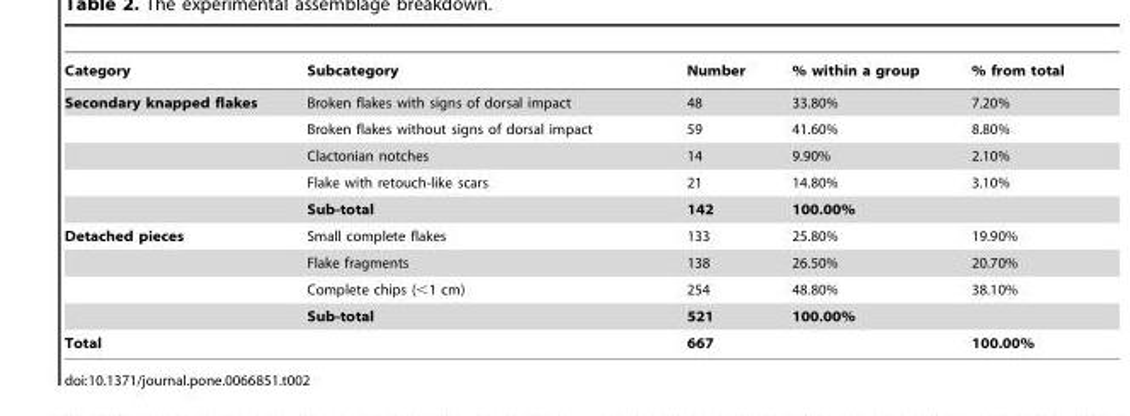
<table><thead><tr><td>Category</td><td>Subcategory</td><td>Number</td><td>% within a group</td><td>% from total</td></tr></thead><tbody><tr><td rowspan="5">Secondary knapped flakes</td><td>Broken flakes with signs of dorsal impact</td><td>48</td><td>33.80%</td><td>7.20%</td></tr><tr><td>Broken flakes without signs of dorsal impact</td><td>59</td><td>41.60%</td><td>8.80%</td></tr><tr><td>Clactonian notches</td><td>14</td><td>9.90%</td><td>2.10%</td></tr><tr><td>Flake with retouch-like scars</td><td>21</td><td>14.80%</td><td>3.10%</td></tr><tr><td>Sub-total</td><td>142</td><td>100.00%</td><td></td></tr><tr><td rowspan="4">Detached pieces</td><td>Small complete flakes</td><td>133</td><td>25.80%</td><td>19.90%</td></tr><tr><td>Flake fragments</td><td>138</td><td>26.50%</td><td>20.70%</td></tr><tr><td>Complete chips (&lt;1 cm)</td><td>254</td><td>48.80%</td><td>38.10%</td></tr><tr><td>Sub-total</td><td>521</td><td>100.00%</td><td></td></tr><tr><td>Total</td><td></td><td>667</td><td></td><td>100.00%</td></tr></tbody></table>